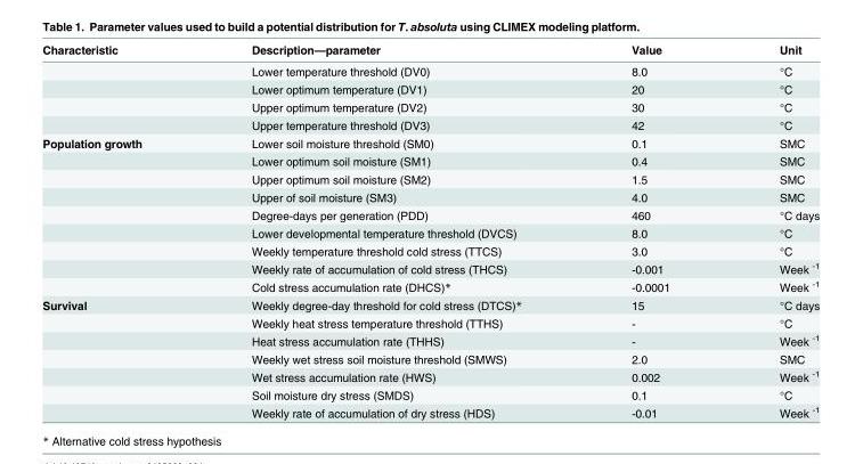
<table><thead><tr><td>Characteristic</td><td>Description—parameter</td><td>Value</td><td>Unit</td></tr></thead><tbody><tr><td></td><td>Lower temperature threshold (DV0)</td><td>8.0</td><td>°C</td></tr><tr><td></td><td>Lower optimum temperature (DV1)</td><td>20</td><td>°C</td></tr><tr><td></td><td>Upper optimum temperature (DV2)</td><td>30</td><td>°C</td></tr><tr><td></td><td>Upper temperature threshold (DV3)</td><td>42</td><td>°C</td></tr><tr><td rowspan="9">Population growth</td><td>Lower soil moisture threshold (SM0)</td><td>0.1</td><td>SMC</td></tr><tr><td>Lower optimum soil moisture (SM1)</td><td>0.4</td><td>SMC</td></tr><tr><td>Upper optimum soil moisture (SM2)</td><td>1.5</td><td>SMC</td></tr><tr><td>Upper of soil moisture (SM3)</td><td>4.0</td><td>SMC</td></tr><tr><td>Degree-days per generation (PDD)</td><td>460</td><td>°C days</td></tr><tr><td>Lower developmental temperature threshold (DVCS)</td><td>8.0</td><td>°C</td></tr><tr><td>Weekly temperature threshold cold stress (TTCS)</td><td>3.0</td><td>°C</td></tr><tr><td>Weekly rate of accumulation of cold stress (THCS)</td><td>-0.001</td><td>Week <sup>-1</sup></td></tr><tr><td>Cold stress accumulation rate (DHCS)*</td><td>-0.0001</td><td>Week <sup>-1</sup></td></tr><tr><td rowspan="7">Survival</td><td>Weekly degree-day threshold for cold stress (DTCS)*</td><td>15</td><td>°C days</td></tr><tr><td>Weekly heat stress temperature threshold (TTHS)</td><td>-</td><td>°C</td></tr><tr><td>Heat stress accumulation rate (THHS)</td><td>-</td><td>Week <sup>-1</sup></td></tr><tr><td>Weekly wet stress soil moisture threshold (SMWS)</td><td>2.0</td><td>SMC</td></tr><tr><td>Wet stress accumulation rate (HWS)</td><td>0.002</td><td>Week <sup>-1</sup></td></tr><tr><td>Soil moisture dry stress (SMDS)</td><td>0.1</td><td>°C</td></tr><tr><td>Weekly rate of accumulation of dry stress (HDS)</td><td>-0.01</td><td>Week <sup>-1</sup></td></tr></tbody></table>